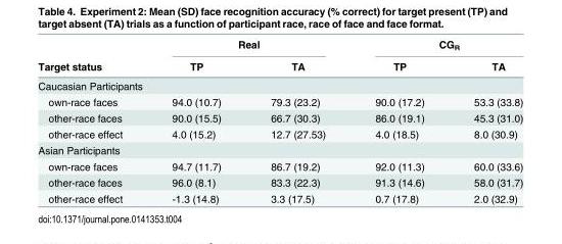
<table><thead><tr><td rowspan="2">Target status</td><td colspan="2">Real</td><td colspan="2">CG<sub>R</sub></td></tr><tr><td>TP</td><td>TA</td><td>TP</td><td>TA</td></tr></thead><tbody><tr><td colspan="5">Caucasian Participants</td></tr><tr><td>own-race faces</td><td>94.0 (10.7)</td><td>79.3 (23.2)</td><td>90.0 (17.2)</td><td>53.3 (33.8)</td></tr><tr><td>other-race faces</td><td>90.0 (15.5)</td><td>66.7 (30.3)</td><td>86.0 (19.1)</td><td>45.3 (31.0)</td></tr><tr><td>other-race effect</td><td>4.0 (15.2)</td><td>12.7 (27.53)</td><td>4.0 (18.5)</td><td>8.0 (30.9)</td></tr><tr><td colspan="5">Asian Participants</td></tr><tr><td>own-race faces</td><td>94.7 (11.7)</td><td>86.7 (19.2)</td><td>92.0 (11.3)</td><td>60.0 (33.6)</td></tr><tr><td>other-race faces</td><td>96.0 (8.1)</td><td>83.3 (22.3)</td><td>91.3 (14.6)</td><td>58.0 (31.7)</td></tr><tr><td>other-race effect</td><td>-1.3 (14.8)</td><td>3.3 (17.5)</td><td>0.7 (17.8)</td><td>2.0 (32.9)</td></tr></tbody></table>